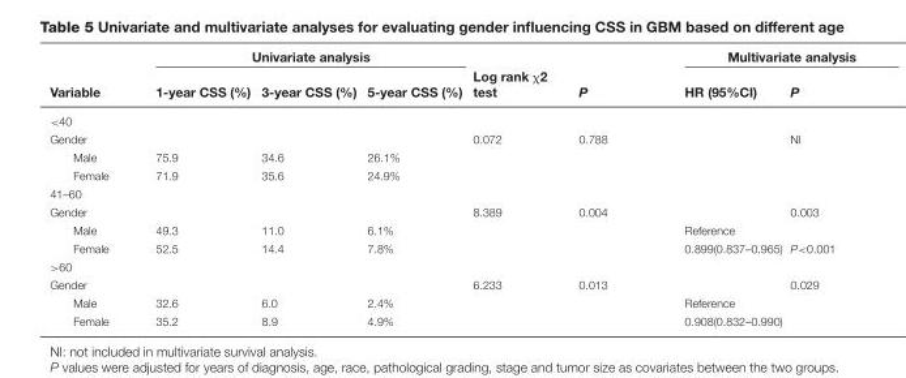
<table><thead><tr><td rowspan="2">Variable</td><td colspan="3">Univariate analysis</td><td rowspan="2">Log rank χ2 test</td><td rowspan="2">P</td><td colspan="2">Multivariate analysis</td></tr><tr><td>1-year CSS (%)</td><td>3-year CSS (%)</td><td>5-year CSS (%)</td><td>HR (95%CI)</td><td>P</td></tr></thead><tbody><tr><td colspan="8">&lt;40</td></tr><tr><td>Gender</td><td></td><td></td><td></td><td>0.072</td><td>0.788</td><td></td><td>NI</td></tr><tr><td>Male</td><td>75.9</td><td>34.6</td><td>26.1%</td><td></td><td></td><td></td><td></td></tr><tr><td>Female</td><td>71.9</td><td>35.6</td><td>24.9%</td><td></td><td></td><td></td><td></td></tr><tr><td colspan="8">41–60</td></tr><tr><td>Gender</td><td></td><td></td><td></td><td>8.389</td><td>0.004</td><td></td><td>0.003</td></tr><tr><td>Male</td><td>49.3</td><td>11.0</td><td>6.1%</td><td></td><td></td><td>Reference</td><td></td></tr><tr><td>Female</td><td>52.5</td><td>14.4</td><td>7.8%</td><td></td><td></td><td>0.899(0.837–0.965)</td><td>P&lt;0.001</td></tr><tr><td colspan="8">&gt;60</td></tr><tr><td>Gender</td><td></td><td></td><td></td><td>6.233</td><td>0.013</td><td></td><td>0.029</td></tr><tr><td>Male</td><td>32.6</td><td>6.0</td><td>2.4%</td><td></td><td></td><td>Reference</td><td></td></tr><tr><td>Female</td><td>35.2</td><td>8.9</td><td>4.9%</td><td></td><td></td><td>0.908(0.832–0.990)</td><td></td></tr></tbody></table>